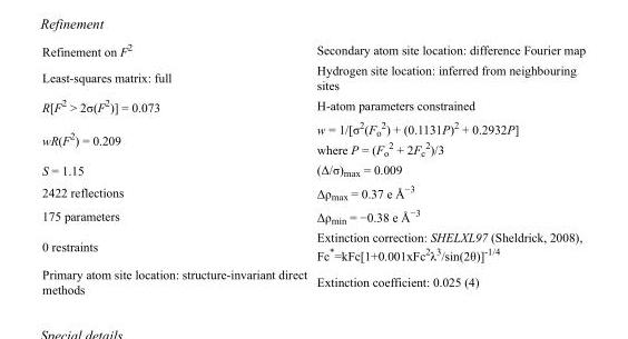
<table><tbody><tr><td>Refinement on F<sup>2</sup></td><td>Secondary atom site location: difference Fourier map</td></tr><tr><td>Least-squares matrix: full</td><td>Hydrogen site location: inferred from neighbouring sites</td></tr><tr><td>R[F<sup>2</sup> &gt; 2σ(F<sup>2</sup>)] = 0.073</td><td>H-atom parameters constrained</td></tr><tr><td>wR(F<sup>2</sup>) = 0.209</td><td>w = 1/[σ<sup>2</sup>(F<sub>o</sub> <sup>2</sup>) + (0.1131P)<sup>2</sup> + 0.2932P] where P = (F<sub>o</sub> <sup>2</sup> + 2F<sub>c</sub> <sup>2</sup>)/3</td></tr><tr><td>S = 1.15</td><td>(Δ/σ)<sub>max</sub> = 0.009</td></tr><tr><td>2422 reflections</td><td>Δρ<sub>max</sub> = 0.37 e Å<sup>−3</sup></td></tr><tr><td>175 parameters</td><td>Δρ<sub>min</sub> = −0.38 e Å<sup>−3</sup></td></tr><tr><td>0 restraints</td><td>Extinction correction: SHELXL97 (Sheldrick, 2008), Fc*=kFc[1+0.001xFc<sup>2</sup>λ<sup>3</sup>/sin(2θ)]<sup>-1/4</sup></td></tr><tr><td>Primary atom site location: structure-invariant direct methods</td><td>Extinction coefficient: 0.025 (4)</td></tr></tbody></table>